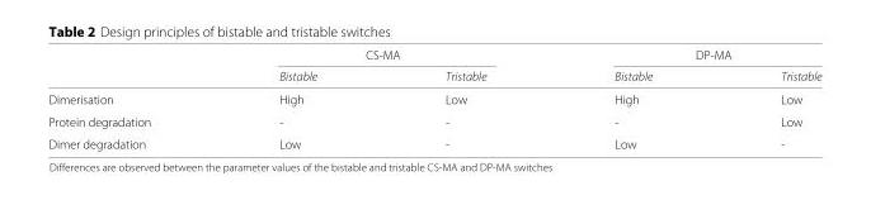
<table><thead><tr><td rowspan="2"></td><td colspan="2">CS-MA</td><td colspan="2">DP-MA</td></tr><tr><td>Bistable</td><td>Tristable</td><td>Bistable</td><td>Tristable</td></tr></thead><tbody><tr><td>Dimerisation</td><td>High</td><td>Low</td><td>High</td><td>Low</td></tr><tr><td>Protein degradation</td><td>-</td><td>-</td><td>-</td><td>Low</td></tr><tr><td>Dimer degradation</td><td>Low</td><td>-</td><td>Low</td><td>-</td></tr></tbody></table>